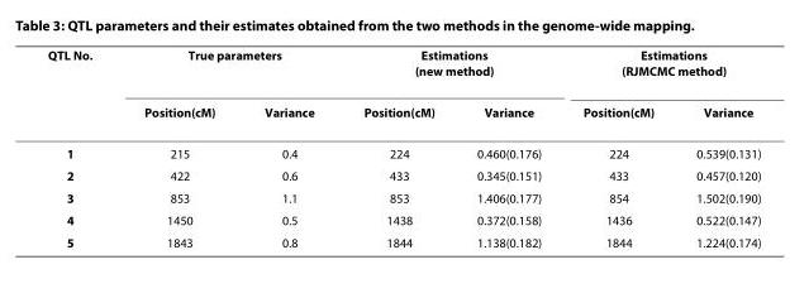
<table><thead><tr><td rowspan="2">QTL No.</td><td colspan="2">True parameters</td><td colspan="2">Estimations (new method)</td><td colspan="2">Estimations (RJMCMC method)</td></tr><tr><td>Position(cM)</td><td>Variance</td><td>Position(cM)</td><td>Variance</td><td>Position(cM)</td><td>Variance</td></tr></thead><tbody><tr><td>1</td><td>215</td><td>0.4</td><td>224</td><td>0.460(0.176)</td><td>224</td><td>0.539(0.131)</td></tr><tr><td>2</td><td>422</td><td>0.6</td><td>433</td><td>0.345(0.151)</td><td>433</td><td>0.457(0.120)</td></tr><tr><td>3</td><td>853</td><td>1.1</td><td>853</td><td>1.406(0.177)</td><td>854</td><td>1.502(0.190)</td></tr><tr><td>4</td><td>1450</td><td>0.5</td><td>1438</td><td>0.372(0.158)</td><td>1436</td><td>0.522(0.147)</td></tr><tr><td>5</td><td>1843</td><td>0.8</td><td>1844</td><td>1.138(0.182)</td><td>1844</td><td>1.224(0.174)</td></tr></tbody></table>